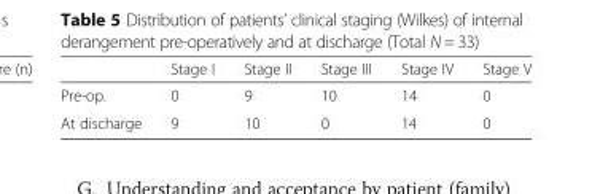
<table><thead><tr><td></td><td>Stage I</td><td>Stage II</td><td>Stage III</td><td>Stage IV</td><td>Stage V</td></tr></thead><tbody><tr><td>Pre-op.</td><td>0</td><td>9</td><td>10</td><td>14</td><td>0</td></tr><tr><td>At discharge</td><td>9</td><td>10</td><td>0</td><td>14</td><td>0</td></tr></tbody></table>